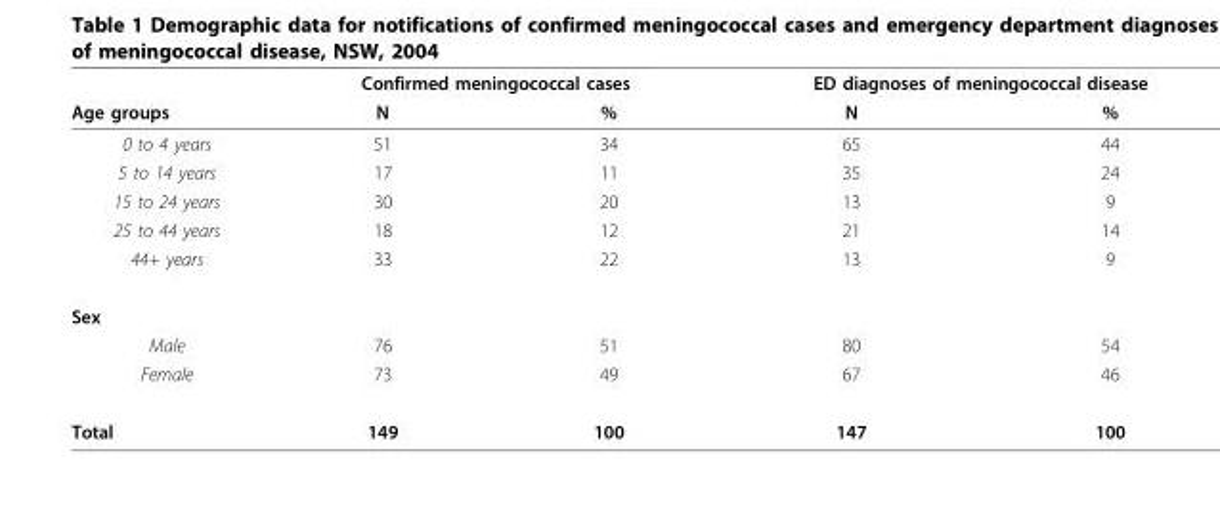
<table><thead><tr><td rowspan="2">Age groups</td><td colspan="2">Confirmed meningococcal cases</td><td colspan="2">ED diagnoses of meningococcal disease</td></tr><tr><td>N</td><td>%</td><td>N</td><td>%</td></tr></thead><tbody><tr><td>0 to 4 years</td><td>51</td><td>34</td><td>65</td><td>44</td></tr><tr><td>5 to 14 years</td><td>17</td><td>11</td><td>35</td><td>24</td></tr><tr><td>15 to 24 years</td><td>30</td><td>20</td><td>13</td><td>9</td></tr><tr><td>25 to 44 years</td><td>18</td><td>12</td><td>21</td><td>14</td></tr><tr><td>44+ years</td><td>33</td><td>22</td><td>13</td><td>9</td></tr><tr><td colspan="5">Sex</td></tr><tr><td>Male</td><td>76</td><td>51</td><td>80</td><td>54</td></tr><tr><td>Female</td><td>73</td><td>49</td><td>67</td><td>46</td></tr><tr><td>Total</td><td>149</td><td>100</td><td>147</td><td>100</td></tr></tbody></table>